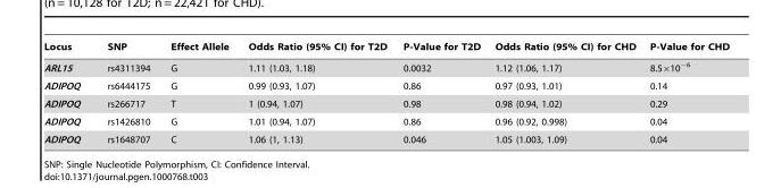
<table><thead><tr><td>Locus</td><td>SNP</td><td>Effect Allele</td><td>Odds Ratio (95% CI) for T2D</td><td>P-Value for T2D</td><td>Odds Ratio (95% CI) for CHD</td><td>P-Value for CHD</td></tr></thead><tbody><tr><td>ARL15</td><td>rs4311394</td><td>G</td><td>1.11 (1.03, 1.18)</td><td>0.0032</td><td>1.12 (1.06, 1.17)</td><td>8.5×10<sup>−6</sup></td></tr><tr><td>ADIPOQ</td><td>rs6444175</td><td>G</td><td>0.99 (0.93, 1.07)</td><td>0.86</td><td>0.97 (0.93, 1.01)</td><td>0.14</td></tr><tr><td>ADIPOQ</td><td>rs266717</td><td>T</td><td>1 (0.94, 1.07)</td><td>0.98</td><td>0.98 (0.94, 1.02)</td><td>0.29</td></tr><tr><td>ADIPOQ</td><td>rs1426810</td><td>G</td><td>1.01 (0.94, 1.07)</td><td>0.86</td><td>0.96 (0.92, 0.998)</td><td>0.04</td></tr><tr><td>ADIPOQ</td><td>rs1648707</td><td>C</td><td>1.06 (1, 1.13)</td><td>0.046</td><td>1.05 (1.003, 1.09)</td><td>0.04</td></tr></tbody></table>